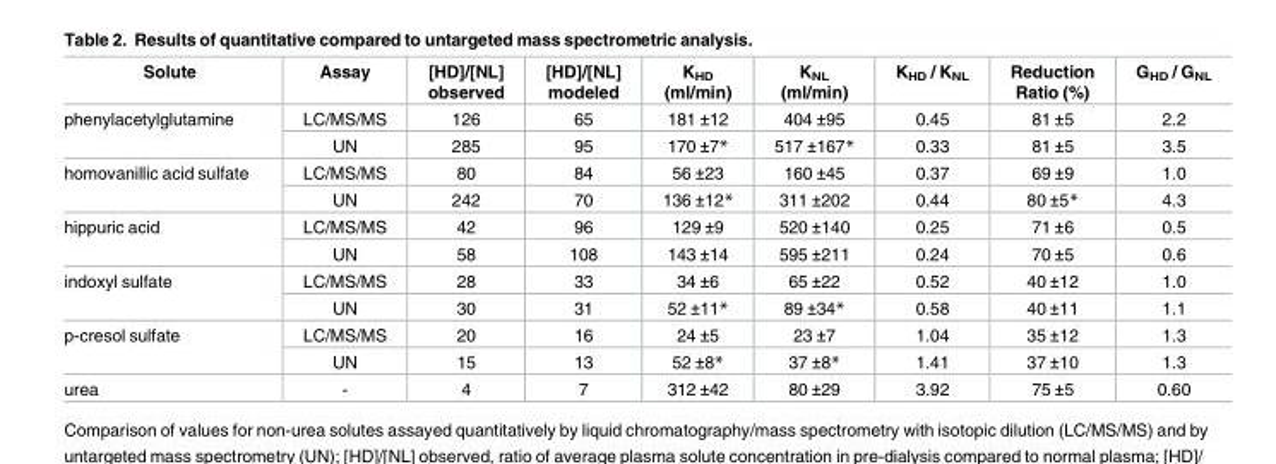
<table><thead><tr><td>Solute</td><td>Assay</td><td>[HD]/[NL] observed</td><td>[HD]/[NL] modeled</td><td>K<sub>HD</sub> (ml/min)</td><td>K<sub>NL</sub> (ml/min)</td><td>K<sub>HD</sub> / K<sub>NL</sub></td><td>Reduction Ratio (%)</td><td>G<sub>HD</sub> / G<sub>NL</sub></td></tr></thead><tbody><tr><td rowspan="2">phenylacetylglutamine</td><td>LC/MS/MS</td><td>126</td><td>65</td><td>181 ±12</td><td>404 ±95</td><td>0.45</td><td>81 ±5</td><td>2.2</td></tr><tr><td>UN</td><td>285</td><td>95</td><td>170 ±7*</td><td>517 ±167*</td><td>0.33</td><td>81 ±5</td><td>3.5</td></tr><tr><td rowspan="2">homovanillic acid sulfate</td><td>LC/MS/MS</td><td>80</td><td>84</td><td>56 ±23</td><td>160 ±45</td><td>0.37</td><td>69 ±9</td><td>1.0</td></tr><tr><td>UN</td><td>242</td><td>70</td><td>136 ±12*</td><td>311 ±202</td><td>0.44</td><td>80 ±5*</td><td>4.3</td></tr><tr><td rowspan="2">hippuric acid</td><td>LC/MS/MS</td><td>42</td><td>96</td><td>129 ±9</td><td>520 ±140</td><td>0.25</td><td>71 ±6</td><td>0.5</td></tr><tr><td>UN</td><td>58</td><td>108</td><td>143 ±14</td><td>595 ±211</td><td>0.24</td><td>70 ±5</td><td>0.6</td></tr><tr><td rowspan="2">indoxyl sulfate</td><td>LC/MS/MS</td><td>28</td><td>33</td><td>34 ±6</td><td>65 ±22</td><td>0.52</td><td>40 ±12</td><td>1.0</td></tr><tr><td>UN</td><td>30</td><td>31</td><td>52 ±11*</td><td>89 ±34*</td><td>0.58</td><td>40 ±11</td><td>1.1</td></tr><tr><td rowspan="2">p-cresol sulfate</td><td>LC/MS/MS</td><td>20</td><td>16</td><td>24 ±5</td><td>23 ±7</td><td>1.04</td><td>35 ±12</td><td>1.3</td></tr><tr><td>UN</td><td>15</td><td>13</td><td>52 ±8*</td><td>37 ±8*</td><td>1.41</td><td>37 ±10</td><td>1.3</td></tr><tr><td>urea</td><td>-</td><td>4</td><td>7</td><td>312 ±42</td><td>80 ±29</td><td>3.92</td><td>75 ±5</td><td>0.60</td></tr></tbody></table>